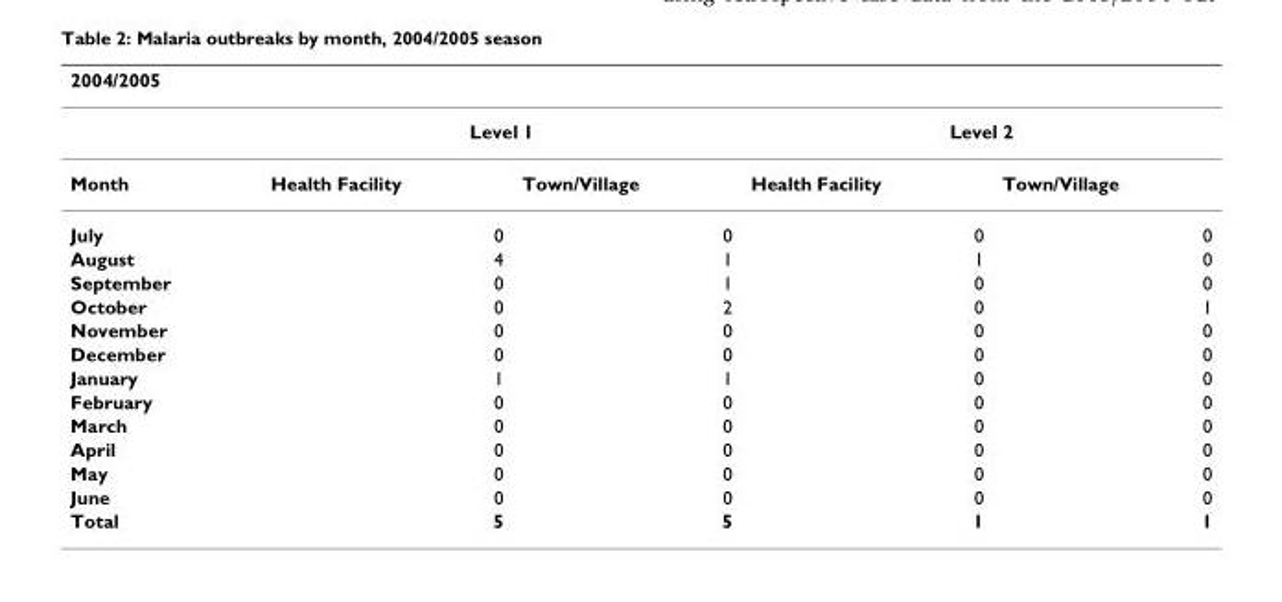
<table><thead><tr><td>2004/2005</td><td></td><td></td><td></td><td></td></tr></thead><tbody><tr><td></td><td colspan="2">Level 1</td><td colspan="2">Level 2</td></tr><tr><td>Month</td><td>Health Facility</td><td>Town/Village</td><td>Health Facility</td><td>Town/Village</td></tr><tr><td>July</td><td>0</td><td>0</td><td>0</td><td>0</td></tr><tr><td>August</td><td>4</td><td>1</td><td>1</td><td>0</td></tr><tr><td>September</td><td>0</td><td>1</td><td>0</td><td>0</td></tr><tr><td>October</td><td>0</td><td>2</td><td>0</td><td>1</td></tr><tr><td>November</td><td>0</td><td>0</td><td>0</td><td>0</td></tr><tr><td>December</td><td>0</td><td>0</td><td>0</td><td>0</td></tr><tr><td>January</td><td>1</td><td>1</td><td>0</td><td>0</td></tr><tr><td>February</td><td>0</td><td>0</td><td>0</td><td>0</td></tr><tr><td>March</td><td>0</td><td>0</td><td>0</td><td>0</td></tr><tr><td>April</td><td>0</td><td>0</td><td>0</td><td>0</td></tr><tr><td>May</td><td>0</td><td>0</td><td>0</td><td>0</td></tr><tr><td>June</td><td>0</td><td>0</td><td>0</td><td>0</td></tr><tr><td>Total</td><td>5</td><td>5</td><td>1</td><td>1</td></tr></tbody></table>